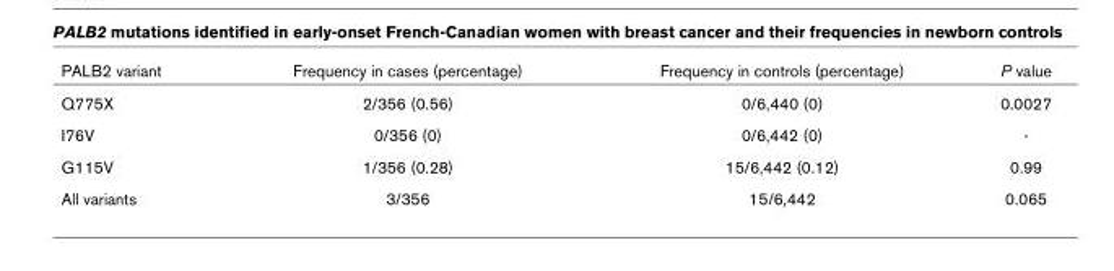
<table><thead><tr><td>PALB2 variant</td><td>Frequency in cases (percentage)</td><td>Frequency in controls (percentage)</td><td>P value</td></tr></thead><tbody><tr><td>Q775X</td><td>2/356 (0.56)</td><td>0/6,440 (0)</td><td>0.0027</td></tr><tr><td>I76V</td><td>0/356 (0)</td><td>0/6,442 (0)</td><td>-</td></tr><tr><td>G115V</td><td>1/356 (0.28)</td><td>15/6,442 (0.12)</td><td>0.99</td></tr><tr><td>All variants</td><td>3/356</td><td>15/6,442</td><td>0.065</td></tr></tbody></table>